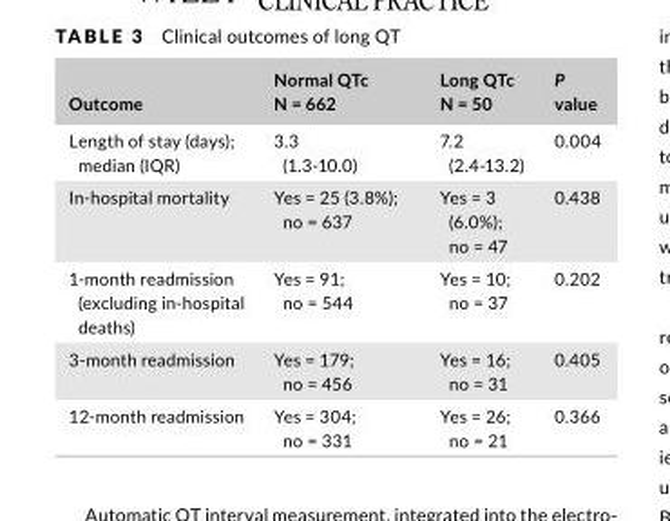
<table><thead><tr><td>Outcome</td><td>Normal QTc N = 662</td><td>Long QTc N = 50</td><td>P value</td></tr></thead><tbody><tr><td>Length of stay (days); median (IQR)</td><td>3.3 (1.3- 10.0)</td><td>7.2 (2.4- 13.2)</td><td>0.004</td></tr><tr><td>In- hospital mortality</td><td>Yes = 25 (3.8%); no = 637</td><td>Yes = 3 (6.0%); no = 47</td><td>0.438</td></tr><tr><td>1- month readmission (excluding in- hospital deaths)</td><td>Yes = 91; no = 544</td><td>Yes = 10; no = 37</td><td>0.202</td></tr><tr><td>3- month readmission</td><td>Yes = 179; no = 456</td><td>Yes = 16; no = 31</td><td>0.405</td></tr><tr><td>12- month readmission</td><td>Yes = 304; no = 331</td><td>Yes = 26; no = 21</td><td>0.366</td></tr></tbody></table>